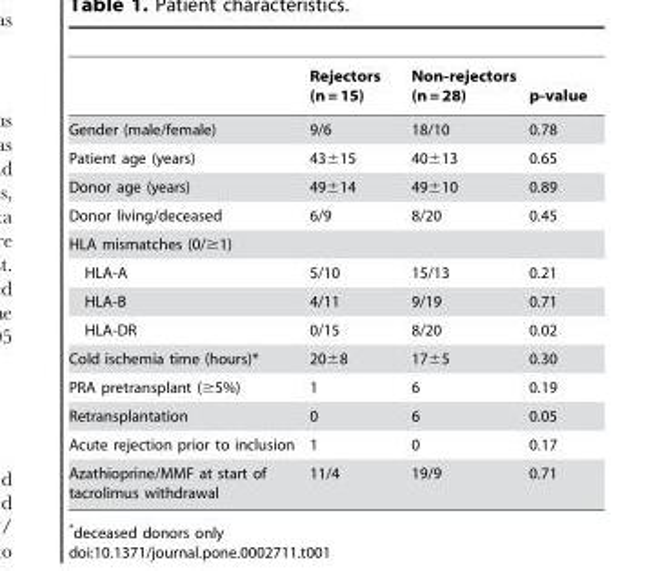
<table><thead><tr><td></td><td>Rejectors (n = 15)</td><td>Non-rejectors (n = 28)</td><td>p-value</td></tr></thead><tbody><tr><td>Gender (male/female)</td><td>9/6</td><td>18/10</td><td>0.78</td></tr><tr><td>Patient age (years)</td><td>43±15</td><td>40±13</td><td>0.65</td></tr><tr><td>Donor age (years)</td><td>49±14</td><td>49±10</td><td>0.89</td></tr><tr><td>Donor living/deceased</td><td>6/9</td><td>8/20</td><td>0.45</td></tr><tr><td colspan="4">HLA mismatches (0/≥1)</td></tr><tr><td>HLA-A</td><td>5/10</td><td>15/13</td><td>0.21</td></tr><tr><td>HLA-B</td><td>4/11</td><td>9/19</td><td>0.71</td></tr><tr><td>HLA-DR</td><td>0/15</td><td>8/20</td><td>0.02</td></tr><tr><td>Cold ischemia time (hours)*</td><td>20±8</td><td>17±5</td><td>0.30</td></tr><tr><td>PRA pretransplant (≥5%)</td><td>1</td><td>6</td><td>0.19</td></tr><tr><td>Retransplantation</td><td>0</td><td>6</td><td>0.05</td></tr><tr><td>Acute rejection prior to inclusion</td><td>1</td><td>0</td><td>0.17</td></tr><tr><td>Azathioprine/MMF at start of tacrolimus withdrawal</td><td>11/4</td><td>19/9</td><td>0.71</td></tr></tbody></table>